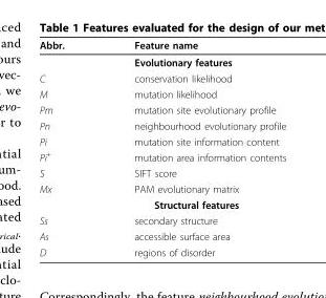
<table><thead><tr><td>Abbr.</td><td>Feature name</td></tr></thead><tbody><tr><td></td><td>Evolutionary features</td></tr><tr><td>C</td><td>conservation likelihood</td></tr><tr><td>M</td><td>mutation likelihood</td></tr><tr><td>Pm</td><td>mutation site evolutionary profile</td></tr><tr><td>Pn</td><td>neighbourhood evolutionary profile</td></tr><tr><td>Pi</td><td>mutation site information content</td></tr><tr><td>Pi<sup>+</sup></td><td>mutation area information contents</td></tr><tr><td>S</td><td>SIFT score</td></tr><tr><td rowspan="2">Mx</td><td>PAM evolutionary matrix</td></tr><tr><td>Structural features</td></tr><tr><td>Ss</td><td>secondary structure</td></tr><tr><td>As</td><td>accessible surface area</td></tr><tr><td>D</td><td>regions of disorder</td></tr></tbody></table>